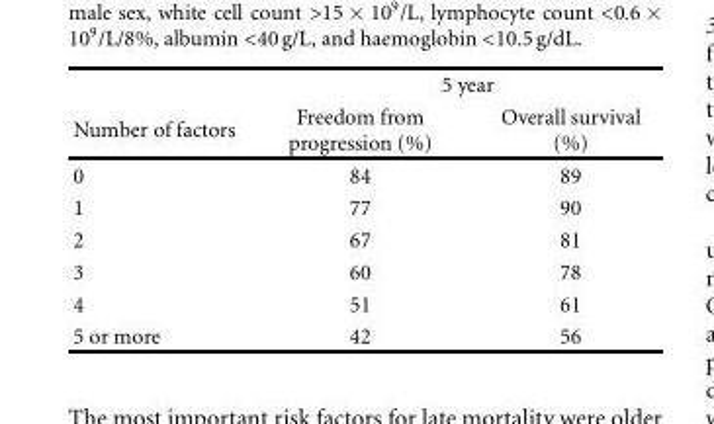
<table><thead><tr><td rowspan="2">Number of factors</td><td colspan="2">5 year</td></tr><tr><td>Freedom from progression (%)</td><td>Overall survival (%)</td></tr></thead><tbody><tr><td>0</td><td>84</td><td>89</td></tr><tr><td>1</td><td>77</td><td>90</td></tr><tr><td>2</td><td>67</td><td>81</td></tr><tr><td>3</td><td>60</td><td>78</td></tr><tr><td>4</td><td>51</td><td>61</td></tr><tr><td>5 or more</td><td>42</td><td>56</td></tr></tbody></table>